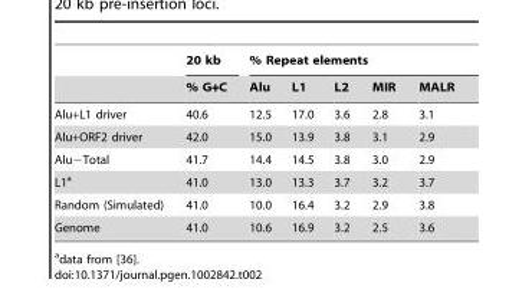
<table><thead><tr><td rowspan="2"></td><td rowspan="2">20 kb % G+C</td><td colspan="5">% Repeat elements</td></tr><tr><td>Alu</td><td>L1</td><td>L2</td><td>MIR</td><td>MALR</td></tr></thead><tbody><tr><td>Alu+L1 driver</td><td>40.6</td><td>12.5</td><td>17.0</td><td>3.6</td><td>2.8</td><td>3.1</td></tr><tr><td>Alu+ORF2 driver</td><td>42.0</td><td>15.0</td><td>13.9</td><td>3.8</td><td>3.1</td><td>2.9</td></tr><tr><td>Alu−Total</td><td>41.7</td><td>14.4</td><td>14.5</td><td>3.8</td><td>3.0</td><td>2.9</td></tr><tr><td>L1<sup>a</sup></td><td>41.0</td><td>13.0</td><td>13.3</td><td>3.7</td><td>3.2</td><td>3.7</td></tr><tr><td>Random (Simulated)</td><td>41.0</td><td>10.0</td><td>16.4</td><td>3.2</td><td>2.9</td><td>3.8</td></tr><tr><td>Genome</td><td>41.0</td><td>10.6</td><td>16.9</td><td>3.2</td><td>2.5</td><td>3.6</td></tr></tbody></table>